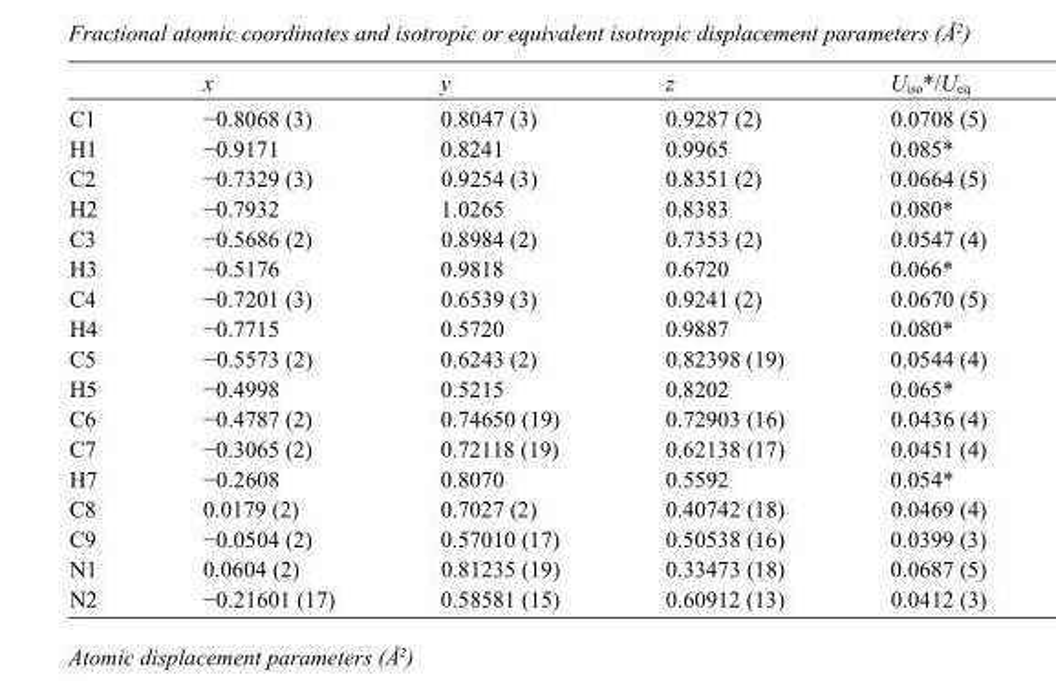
<table><thead><tr><td></td><td>x</td><td>y</td><td>z</td><td>U<sub>iso</sub>*/U<sub>eq</sub></td></tr></thead><tbody><tr><td>C1</td><td>−0.8068 (3)</td><td>0.8047 (3)</td><td>0.9287 (2)</td><td>0.0708 (5)</td></tr><tr><td>H1</td><td>−0.9171</td><td>0.8241</td><td>0.9965</td><td>0.085*</td></tr><tr><td>C2</td><td>−0.7329 (3)</td><td>0.9254 (3)</td><td>0.8351 (2)</td><td>0.0664 (5)</td></tr><tr><td>H2</td><td>−0.7932</td><td>1.0265</td><td>0.8383</td><td>0.080*</td></tr><tr><td>C3</td><td>−0.5686 (2)</td><td>0.8984 (2)</td><td>0.7353 (2)</td><td>0.0547 (4)</td></tr><tr><td>H3</td><td>−0.5176</td><td>0.9818</td><td>0.6720</td><td>0.066*</td></tr><tr><td>C4</td><td>−0.7201 (3)</td><td>0.6539 (3)</td><td>0.9241 (2)</td><td>0.0670 (5)</td></tr><tr><td>H4</td><td>−0.7715</td><td>0.5720</td><td>0.9887</td><td>0.080*</td></tr><tr><td>C5</td><td>−0.5573 (2)</td><td>0.6243 (2)</td><td>0.82398 (19)</td><td>0.0544 (4)</td></tr><tr><td>H5</td><td>−0.4998</td><td>0.5215</td><td>0.8202</td><td>0.065*</td></tr><tr><td>C6</td><td>−0.4787 (2)</td><td>0.74650 (19)</td><td>0.72903 (16)</td><td>0.0436 (4)</td></tr><tr><td>C7</td><td>−0.3065 (2)</td><td>0.72118 (19)</td><td>0.62138 (17)</td><td>0.0451 (4)</td></tr><tr><td>H7</td><td>−0.2608</td><td>0.8070</td><td>0.5592</td><td>0.054*</td></tr><tr><td>C8</td><td>0.0179 (2)</td><td>0.7027 (2)</td><td>0.40742 (18)</td><td>0.0469 (4)</td></tr><tr><td>C9</td><td>−0.0504 (2)</td><td>0.57010 (17)</td><td>0.50538 (16)</td><td>0.0399 (3)</td></tr><tr><td>N1</td><td>0.0604 (2)</td><td>0.81235 (19)</td><td>0.33473 (18)</td><td>0.0687 (5)</td></tr><tr><td>N2</td><td>−0.21601 (17)</td><td>0.58581 (15)</td><td>0.60912 (13)</td><td>0.0412 (3)</td></tr></tbody></table>